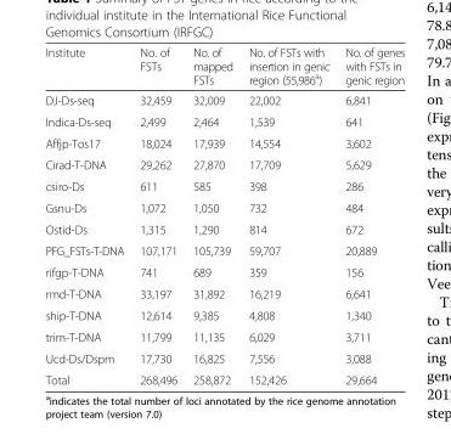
<table><thead><tr><td>Institute</td><td>No. of FSTs</td><td>No. of mapped FSTs</td><td>No. of FSTs with insertion in genic region (55,986<sup>a</sup>)</td><td>No. of genes with FSTs in genic region</td></tr></thead><tbody><tr><td>DJ-Ds-seq</td><td>32,459</td><td>32,009</td><td>22,002</td><td>6,841</td></tr><tr><td>Indica-Ds-seq</td><td>2,499</td><td>2,464</td><td>1,539</td><td>641</td></tr><tr><td>Affjp-Tos17</td><td>18,024</td><td>17,939</td><td>14,554</td><td>3,602</td></tr><tr><td>Cirad-T-DNA</td><td>29,262</td><td>27,870</td><td>17,709</td><td>5,629</td></tr><tr><td>csiro-Ds</td><td>611</td><td>585</td><td>398</td><td>286</td></tr><tr><td>Gsnu-Ds</td><td>1,072</td><td>1,050</td><td>732</td><td>484</td></tr><tr><td>Ostid-Ds</td><td>1,315</td><td>1,290</td><td>814</td><td>672</td></tr><tr><td>PFG_FSTs-T-DNA</td><td>107,171</td><td>105,739</td><td>59,707</td><td>20,889</td></tr><tr><td>rifgp-T-DNA</td><td>741</td><td>689</td><td>359</td><td>156</td></tr><tr><td>rmd-T-DNA</td><td>33,197</td><td>31,892</td><td>16,219</td><td>6,641</td></tr><tr><td>ship-T-DNA</td><td>12,614</td><td>9,385</td><td>4,808</td><td>1,340</td></tr><tr><td>trim-T-DNA</td><td>11,799</td><td>11,135</td><td>6,029</td><td>3,711</td></tr><tr><td>Ucd-Ds/Dspm</td><td>17,730</td><td>16,825</td><td>7,556</td><td>3,088</td></tr><tr><td>Total</td><td>268,496</td><td>258,872</td><td>152,426</td><td>29,664</td></tr></tbody></table>